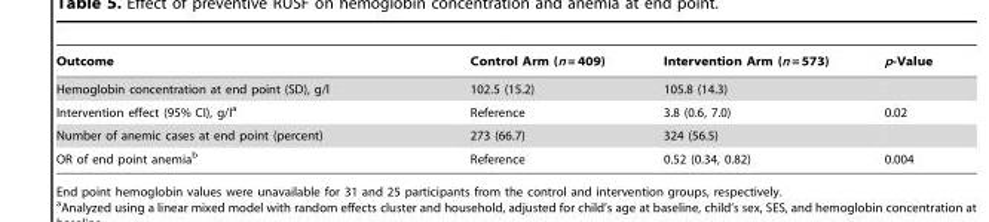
<table><thead><tr><td>Outcome</td><td>Control Arm (n = 409)</td><td>Intervention Arm (n = 573)</td><td>p-Value</td></tr></thead><tbody><tr><td>Hemoglobin concentration at end point (SD), g/l</td><td>102.5 (15.2)</td><td>105.8 (14.3)</td><td></td></tr><tr><td>Intervention effect (95% CI), g/l<sup>a</sup></td><td>Reference</td><td>3.8 (0.6, 7.0)</td><td>0.02</td></tr><tr><td>Number of anemic cases at end point (percent)</td><td>273 (66.7)</td><td>324 (56.5)</td><td></td></tr><tr><td>OR of end point anemia<sup>b</sup></td><td>Reference</td><td>0.52 (0.34, 0.82)</td><td>0.004</td></tr></tbody></table>